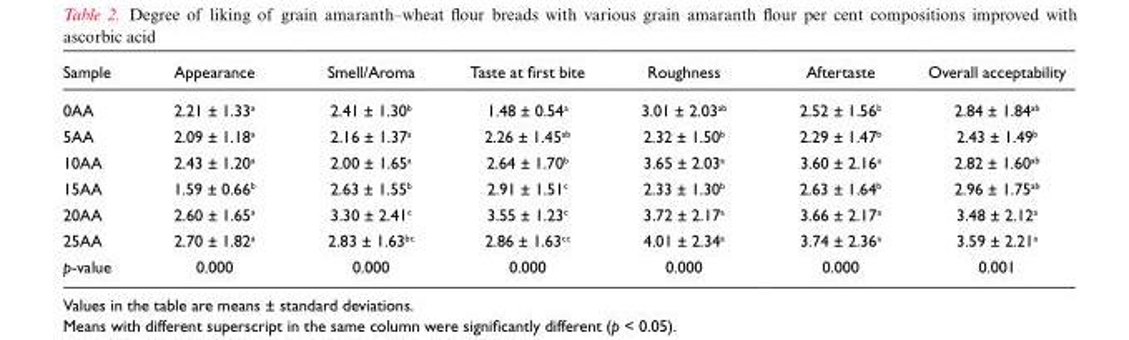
<table><thead><tr><td>Sample</td><td>Appearance</td><td>Smell/Aroma</td><td>Taste at first bite</td><td>Roughness</td><td>Aftertaste</td><td>Overall acceptability</td></tr></thead><tbody><tr><td>0AA</td><td>2.21 ± 1.33<sup>a</sup></td><td>2.41 ± 1.30<sup>b</sup></td><td>1.48 ± 0.54<sup>a</sup></td><td>3.01 ± 2.03<sup>ab</sup></td><td>2.52 ± 1.56<sup>b</sup></td><td>2.84 ± 1.84<sup>ab</sup></td></tr><tr><td>5AA</td><td>2.09 ± 1.18<sup>a</sup></td><td>2.16 ± 1.37<sup>a</sup></td><td>2.26 ± 1.45<sup>ab</sup></td><td>2.32 ± 1.50<sup>b</sup></td><td>2.29 ± 1.47<sup>b</sup></td><td>2.43 ± 1.49<sup>b</sup></td></tr><tr><td>10AA</td><td>2.43 ± 1.20<sup>a</sup></td><td>2.00 ± 1.65<sup>a</sup></td><td>2.64 ± 1.70<sup>b</sup></td><td>3.65 ± 2.03<sup>a</sup></td><td>3.60 ± 2.16<sup>a</sup></td><td>2.82 ± 1.60<sup>ab</sup></td></tr><tr><td>15AA</td><td>1.59 ± 0.66<sup>b</sup></td><td>2.63 ± 1.55<sup>b</sup></td><td>2.91 ± 1.51<sup>c</sup></td><td>2.33 ± 1.30<sup>b</sup></td><td>2.63 ± 1.64<sup>b</sup></td><td>2.96 ± 1.75<sup>ab</sup></td></tr><tr><td>20AA</td><td>2.60 ± 1.65<sup>a</sup></td><td>3.30 ± 2.41<sup>c</sup></td><td>3.55 ± 1.23<sup>c</sup></td><td>3.72 ± 2.17<sup>a</sup></td><td>3.66 ± 2.17<sup>a</sup></td><td>3.48 ± 2.12<sup>a</sup></td></tr><tr><td>25AA</td><td>2.70 ± 1.82<sup>a</sup></td><td>2.83 ± 1.63<sup>bc</sup></td><td>2.86 ± 1.63<sup>cc</sup></td><td>4.01 ± 2.34<sup>a</sup></td><td>3.74 ± 2.36<sup>a</sup></td><td>3.59 ± 2.21<sup>a</sup></td></tr><tr><td>p-value</td><td>0.000</td><td>0.000</td><td>0.000</td><td>0.000</td><td>0.000</td><td>0.001</td></tr></tbody></table>